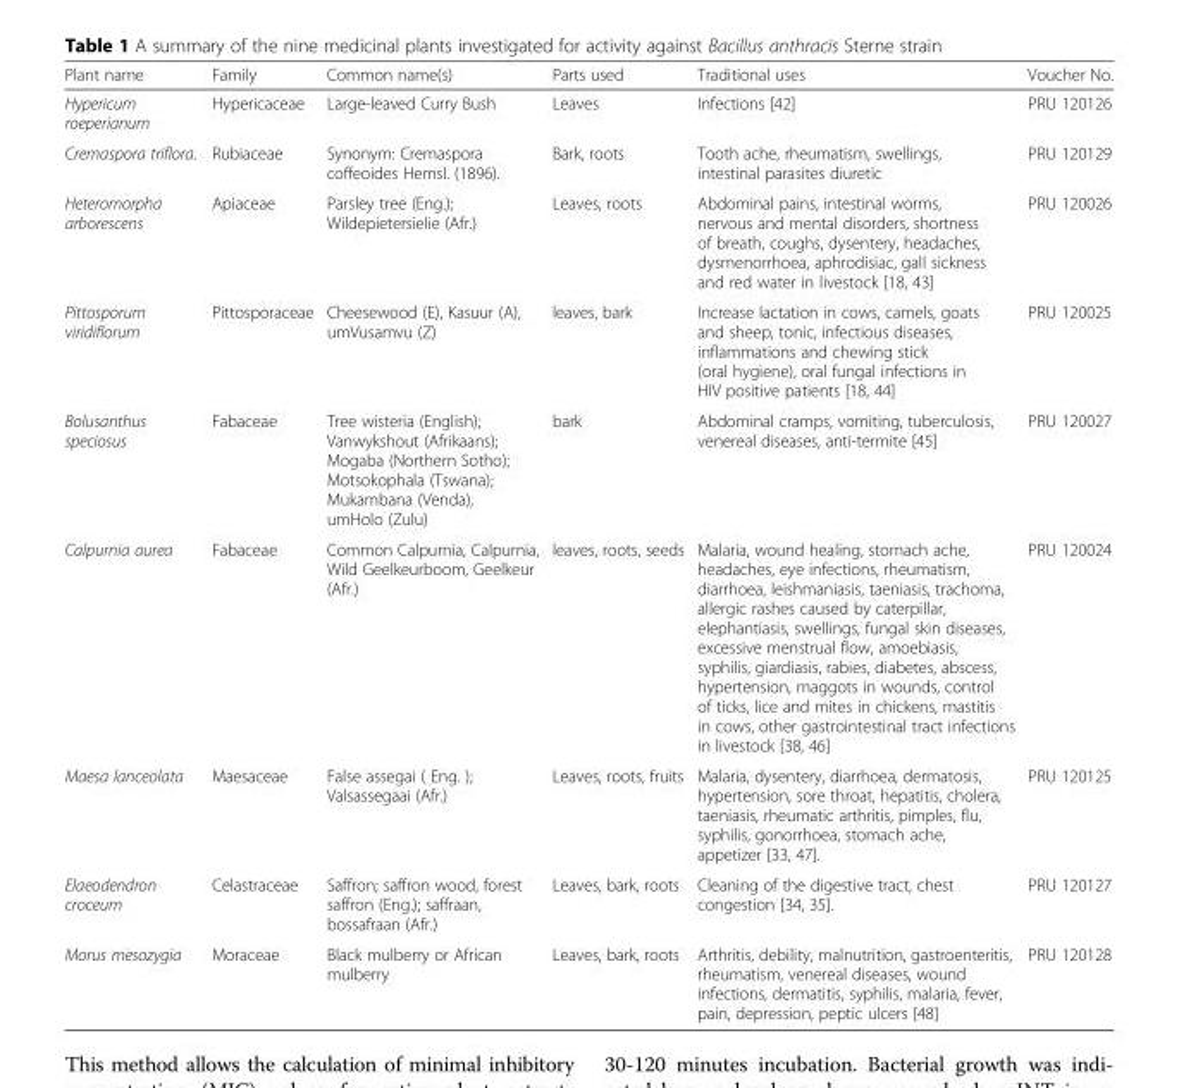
<table><thead><tr><td>Plant name</td><td>Family</td><td>Common name(s)</td><td>Parts used</td><td>Traditional uses</td><td>Voucher No.</td></tr></thead><tbody><tr><td>Hypericum roeperianum</td><td>Hypericaceae</td><td>Large-leaved Curry Bush</td><td>Leaves</td><td>Infections [42]</td><td>PRU 120126</td></tr><tr><td>Cremaspora triflora.</td><td>Rubiaceae</td><td>Synonym: Cremaspora coffeoides Hemsl. (1896).</td><td>Bark, roots</td><td>Tooth ache, rheumatism, swellings, intestinal parasites diuretic</td><td>PRU 120129</td></tr><tr><td>Heteromorpha arborescens</td><td>Apiaceae</td><td>Parsley tree (Eng.); Wildepietersielie (Afr.)</td><td>Leaves, roots</td><td>Abdominal pains, intestinal worms, nervous and mental disorders, shortness of breath, coughs, dysentery, headaches, dysmenorrhoea, aphrodisiac, gall sickness and red water in livestock [18, 43]</td><td>PRU 120026</td></tr><tr><td>Pittosporum viridiflorum</td><td>Pittosporaceae</td><td>Cheesewood (E), Kasuur (A), umVusamvu (Z)</td><td>leaves, bark</td><td>Increase lactation in cows, camels, goats and sheep, tonic, infectious diseases, inflammations and chewing stick (oral hygiene), oral fungal infections in HIV positive patients [18, 44]</td><td>PRU 120025</td></tr><tr><td>Bolusanthus speciosus</td><td>Fabaceae</td><td>Tree wisteria (English); Vanwykshout (Afrikaans); Mogaba (Northern Sotho); Motsokophala (Tswana); Mukambana (Venda), umHolo (Zulu)</td><td>bark</td><td>Abdominal cramps, vomiting, tuberculosis, venereal diseases, anti-termite [45]</td><td>PRU 120027</td></tr><tr><td>Calpurnia aurea</td><td>Fabaceae</td><td>Common Calpurnia, Calpurnia, Wild Geelkeurboom, Geelkeur (Afr.)</td><td>leaves, roots, seeds</td><td>Malaria, wound healing, stomach ache, headaches, eye infections, rheumatism, diarrhoea, leishmaniasis, taeniasis, trachoma, allergic rashes caused by caterpillar, elephantiasis, swellings, fungal skin diseases, excessive menstrual flow, amoebiasis, syphilis, giardiasis, rabies, diabetes, abscess, hypertension, maggots in wounds, control of ticks, lice and mites in chickens, mastitis in cows, other gastrointestinal tract infections in livestock [38, 46]</td><td>PRU 120024</td></tr><tr><td>Maesa lanceolata</td><td>Maesaceae</td><td>False assegai ( Eng. ); Valsassegaai (Afr.)</td><td>Leaves, roots, fruits</td><td>Malaria, dysentery, diarrhoea, dermatosis, hypertension, sore throat, hepatitis, cholera, taeniasis, rheumatic arthritis, pimples, flu, syphilis, gonorrhoea, stomach ache, appetizer [33, 47].</td><td>PRU 120125</td></tr><tr><td>Elaeodendron croceum</td><td>Celastraceae</td><td>Saffron; saffron wood, forest saffron (Eng.); saffraan, bossafraan (Afr.)</td><td>Leaves, bark, roots</td><td>Cleaning of the digestive tract, chest congestion [34, 35].</td><td>PRU 120127</td></tr><tr><td>Morus mesozygia</td><td>Moraceae</td><td>Black mulberry or African mulberry</td><td>Leaves, bark, roots</td><td>Arthritis, debility, malnutrition, gastroenteritis, rheumatism, venereal diseases, wound infections, dermatitis, syphilis, malaria, fever, pain, depression, peptic ulcers [48]</td><td>PRU 120128</td></tr></tbody></table>